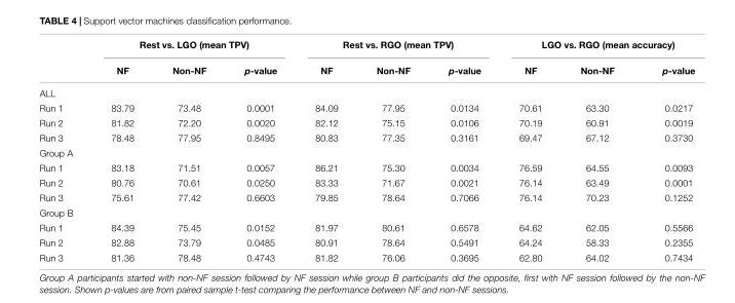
<table><thead><tr><td rowspan="2"></td><td colspan="3">Rest vs. LGO (mean TPV)</td><td colspan="3">Rest vs. RGO (mean TPV)</td><td colspan="3">LGO vs. RGO (mean accuracy)</td></tr><tr><td>NF</td><td>Non-NF</td><td>p-value</td><td>NF</td><td>Non-NF</td><td>p-value</td><td>NF</td><td>Non-NF</td><td>p-value</td></tr></thead><tbody><tr><td colspan="10">ALL</td></tr><tr><td>Run 1</td><td>83.79</td><td>73.48</td><td>0.0001</td><td>84.09</td><td>77.95</td><td>0.0134</td><td>70.61</td><td>63.30</td><td>0.0217</td></tr><tr><td>Run 2</td><td>81.82</td><td>72.20</td><td>0.0020</td><td>82.12</td><td>75.15</td><td>0.0106</td><td>70.19</td><td>60.91</td><td>0.0019</td></tr><tr><td>Run 3</td><td>78.48</td><td>77.95</td><td>0.8495</td><td>80.83</td><td>77.35</td><td>0.3161</td><td>69.47</td><td>67.12</td><td>0.3730</td></tr><tr><td colspan="10">Group A</td></tr><tr><td>Run 1</td><td>83.18</td><td>71.51</td><td>0.0057</td><td>86.21</td><td>75.30</td><td>0.0034</td><td>76.59</td><td>64.55</td><td>0.0093</td></tr><tr><td>Run 2</td><td>80.76</td><td>70.61</td><td>0.0250</td><td>83.33</td><td>71.67</td><td>0.0021</td><td>76.14</td><td>63.49</td><td>0.0001</td></tr><tr><td>Run 3</td><td>75.61</td><td>77.42</td><td>0.6603</td><td>79.85</td><td>78.64</td><td>0.7066</td><td>76.14</td><td>70.23</td><td>0.1252</td></tr><tr><td colspan="10">Group B</td></tr><tr><td>Run 1</td><td>84.39</td><td>75.45</td><td>0.0152</td><td>81.97</td><td>80.61</td><td>0.6578</td><td>64.62</td><td>62.05</td><td>0.5566</td></tr><tr><td>Run 2</td><td>82.88</td><td>73.79</td><td>0.0485</td><td>80.91</td><td>78.64</td><td>0.5491</td><td>64.24</td><td>58.33</td><td>0.2355</td></tr><tr><td>Run 3</td><td>81.36</td><td>78.48</td><td>0.4743</td><td>81.82</td><td>76.06</td><td>0.3695</td><td>62.80</td><td>64.02</td><td>0.7434</td></tr></tbody></table>